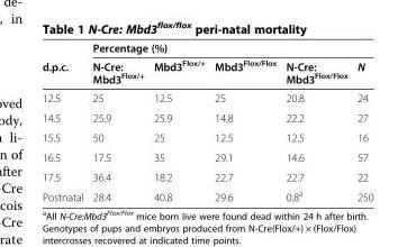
<table><thead><tr><td rowspan="2">d.p.c.</td><td colspan="5">Percentage (%)</td></tr><tr><td>N-Cre: Mbd3<sup>Flox/+</sup></td><td>Mbd3<sup>Flox/+</sup></td><td>Mbd3<sup>Flox/Flox</sup></td><td>N-Cre: Mbd3<sup>Flox/Flox</sup></td><td>N</td></tr></thead><tbody><tr><td>12.5</td><td>25</td><td>12.5</td><td>25</td><td>20.8</td><td>24</td></tr><tr><td>14.5</td><td>25.9</td><td>25.9</td><td>14.8</td><td>22.2</td><td>27</td></tr><tr><td>15.5</td><td>50</td><td>25</td><td>12.5</td><td>12.5</td><td>16</td></tr><tr><td>16.5</td><td>17.5</td><td>35</td><td>29.1</td><td>14.6</td><td>57</td></tr><tr><td>17.5</td><td>36.4</td><td>18.2</td><td>22.7</td><td>22.7</td><td>22</td></tr><tr><td>Postnatal</td><td>28.4</td><td>40.8</td><td>29.6</td><td>0.8<sup>a</sup></td><td>250</td></tr></tbody></table>